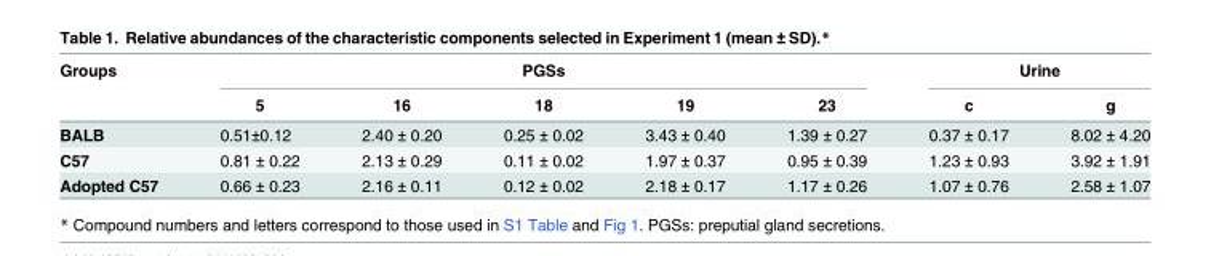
<table><thead><tr><td rowspan="2">Groups</td><td colspan="5">PGSs</td><td colspan="2">Urine</td></tr><tr><td>5</td><td>16</td><td>18</td><td>19</td><td>23</td><td>c</td><td>g</td></tr></thead><tbody><tr><td>BALB</td><td>0.51±0.12</td><td>2.40 ± 0.20</td><td>0.25 ± 0.02</td><td>3.43 ± 0.40</td><td>1.39 ± 0.27</td><td>0.37 ± 0.17</td><td>8.02 ± 4.20</td></tr><tr><td>C57</td><td>0.81 ± 0.22</td><td>2.13 ± 0.29</td><td>0.11 ± 0.02</td><td>1.97 ± 0.37</td><td>0.95 ± 0.39</td><td>1.23 ± 0.93</td><td>3.92 ± 1.91</td></tr><tr><td>Adopted C57</td><td>0.66 ± 0.23</td><td>2.16 ± 0.11</td><td>0.12 ± 0.02</td><td>2.18 ± 0.17</td><td>1.17 ± 0.26</td><td>1.07 ± 0.76</td><td>2.58 ± 1.07</td></tr></tbody></table>